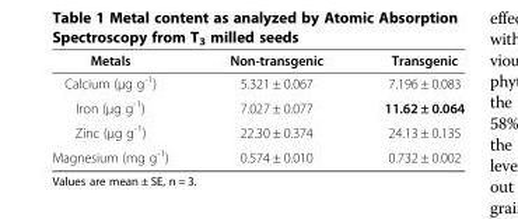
<table><thead><tr><td>Metals</td><td>Non-transgenic</td><td>Transgenic</td></tr></thead><tbody><tr><td>Calcium (μg g<sup>-1</sup>)</td><td>5.321 ± 0.067</td><td>7.196 ± 0.083</td></tr><tr><td>Iron (μg g<sup>-1</sup>)</td><td>7.027 ± 0.077</td><td>11.62 ± 0.064</td></tr><tr><td>Zinc (μg g<sup>-1</sup>)</td><td>22.30 ± 0.374</td><td>24.13 ± 0.135</td></tr><tr><td>Magnesium (mg g<sup>-1</sup>)</td><td>0.574 ± 0.010</td><td>0.732 ± 0.002</td></tr></tbody></table>